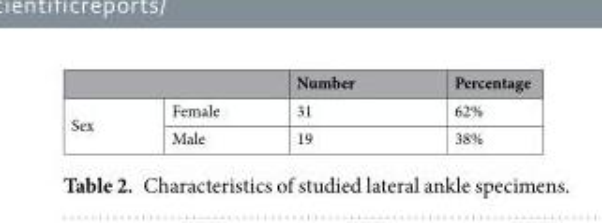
<table><thead><tr><td></td><td></td><td>Number</td><td>Percentage</td></tr></thead><tbody><tr><td rowspan="2">Sex</td><td>Female</td><td>31</td><td>62%</td></tr><tr><td>Male</td><td>19</td><td>38%</td></tr></tbody></table>